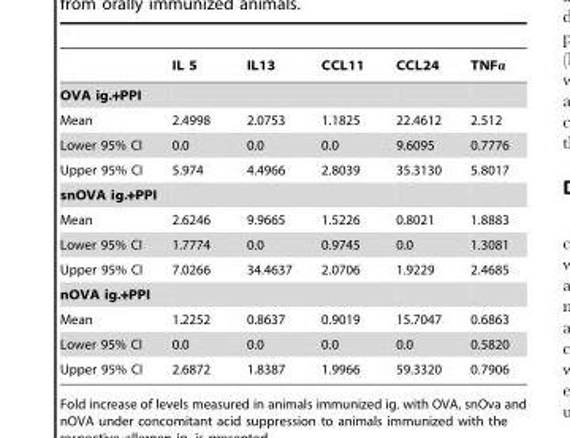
<table><thead><tr><td></td><td>IL 5</td><td>IL13</td><td>CCL11</td><td>CCL24</td><td>TNFα</td></tr></thead><tbody><tr><td colspan="6">OVA ig.+PPI</td></tr><tr><td>Mean</td><td>2.4998</td><td>2.0753</td><td>1.1825</td><td>22.4612</td><td>2.512</td></tr><tr><td>Lower 95% CI</td><td>0.0</td><td>0.0</td><td>0.0</td><td>9.6095</td><td>0.7776</td></tr><tr><td>Upper 95% CI</td><td>5.974</td><td>4.4966</td><td>2.8039</td><td>35.3130</td><td>5.8017</td></tr><tr><td colspan="6">snOVA ig.+PPI</td></tr><tr><td>Mean</td><td>2.6246</td><td>9.9665</td><td>1.5226</td><td>0.8021</td><td>1.8883</td></tr><tr><td>Lower 95% CI</td><td>1.7774</td><td>0.0</td><td>0.9745</td><td>0.0</td><td>1.3081</td></tr><tr><td>Upper 95% CI</td><td>7.0266</td><td>34.4637</td><td>2.0706</td><td>1.9229</td><td>2.4685</td></tr><tr><td colspan="6">nOVA ig.+PPI</td></tr><tr><td>Mean</td><td>1.2252</td><td>0.8637</td><td>0.9019</td><td>15.7047</td><td>0.6863</td></tr><tr><td>Lower 95% CI</td><td>0.0</td><td>0.0</td><td>0.0</td><td>0.0</td><td>0.5820</td></tr><tr><td>Upper 95% CI</td><td>2.6872</td><td>1.8387</td><td>1.9966</td><td>59.3320</td><td>0.7906</td></tr></tbody></table>